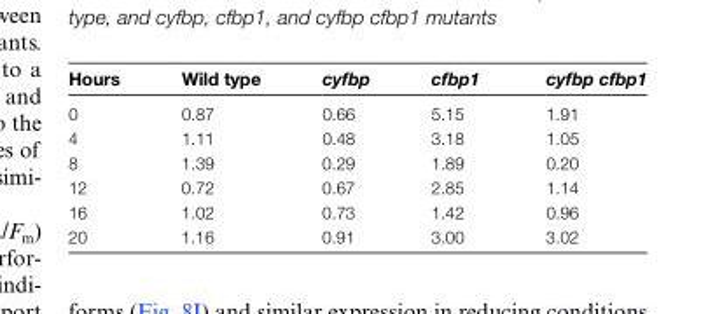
<table><thead><tr><td>Hours</td><td>Wild type</td><td>cyfbp</td><td>cfbp1</td><td>cyfbp cfbp1</td></tr></thead><tbody><tr><td>0</td><td>0.87</td><td>0.66</td><td>5.15</td><td>1.91</td></tr><tr><td>4</td><td>1.11</td><td>0.48</td><td>3.18</td><td>1.05</td></tr><tr><td>8</td><td>1.39</td><td>0.29</td><td>1.89</td><td>0.20</td></tr><tr><td>12</td><td>0.72</td><td>0.67</td><td>2.85</td><td>1.14</td></tr><tr><td>16</td><td>1.02</td><td>0.73</td><td>1.42</td><td>0.96</td></tr><tr><td>20</td><td>1.16</td><td>0.91</td><td>3.00</td><td>3.02</td></tr></tbody></table>